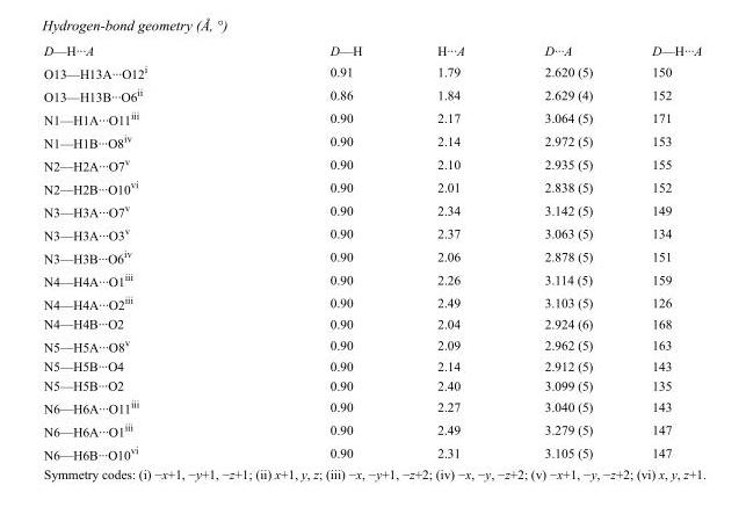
<table><tbody><tr><td>D—H···A</td><td>D—H</td><td>H···A</td><td>D···A</td><td>D—H···A</td></tr><tr><td>O13—H13A···O12<sup>i</sup></td><td>0.91</td><td>1.79</td><td>2.620 (5)</td><td>150</td></tr><tr><td>O13—H13B···O6<sup>ii</sup></td><td>0.86</td><td>1.84</td><td>2.629 (4)</td><td>152</td></tr><tr><td>N1—H1A···O11<sup>iii</sup></td><td>0.90</td><td>2.17</td><td>3.064 (5)</td><td>171</td></tr><tr><td>N1—H1B···O8<sup>iv</sup></td><td>0.90</td><td>2.14</td><td>2.972 (5)</td><td>153</td></tr><tr><td>N2—H2A···O7<sup>v</sup></td><td>0.90</td><td>2.10</td><td>2.935 (5)</td><td>155</td></tr><tr><td>N2—H2B···O10<sup>vi</sup></td><td>0.90</td><td>2.01</td><td>2.838 (5)</td><td>152</td></tr><tr><td>N3—H3A···O7<sup>v</sup></td><td>0.90</td><td>2.34</td><td>3.142 (5)</td><td>149</td></tr><tr><td>N3—H3A···O3<sup>v</sup></td><td>0.90</td><td>2.37</td><td>3.063 (5)</td><td>134</td></tr><tr><td>N3—H3B···O6<sup>iv</sup></td><td>0.90</td><td>2.06</td><td>2.878 (5)</td><td>151</td></tr><tr><td>N4—H4A···O1<sup>iii</sup></td><td>0.90</td><td>2.26</td><td>3.114 (5)</td><td>159</td></tr><tr><td>N4—H4A···O2<sup>iii</sup></td><td>0.90</td><td>2.49</td><td>3.103 (5)</td><td>126</td></tr><tr><td>N4—H4B···O2</td><td>0.90</td><td>2.04</td><td>2.924 (6)</td><td>168</td></tr><tr><td>N5—H5A···O8<sup>v</sup></td><td>0.90</td><td>2.09</td><td>2.962 (5)</td><td>163</td></tr><tr><td>N5—H5B···O4</td><td>0.90</td><td>2.14</td><td>2.912 (5)</td><td>143</td></tr><tr><td>N5—H5B···O2</td><td>0.90</td><td>2.40</td><td>3.099 (5)</td><td>135</td></tr><tr><td>N6—H6A···O11<sup>iii</sup></td><td>0.90</td><td>2.27</td><td>3.040 (5)</td><td>143</td></tr><tr><td>N6—H6A···O1<sup>iii</sup></td><td>0.90</td><td>2.49</td><td>3.279 (5)</td><td>147</td></tr><tr><td>N6—H6B···O10<sup>vi</sup></td><td>0.90</td><td>2.31</td><td>3.105 (5)</td><td>147</td></tr></tbody></table>